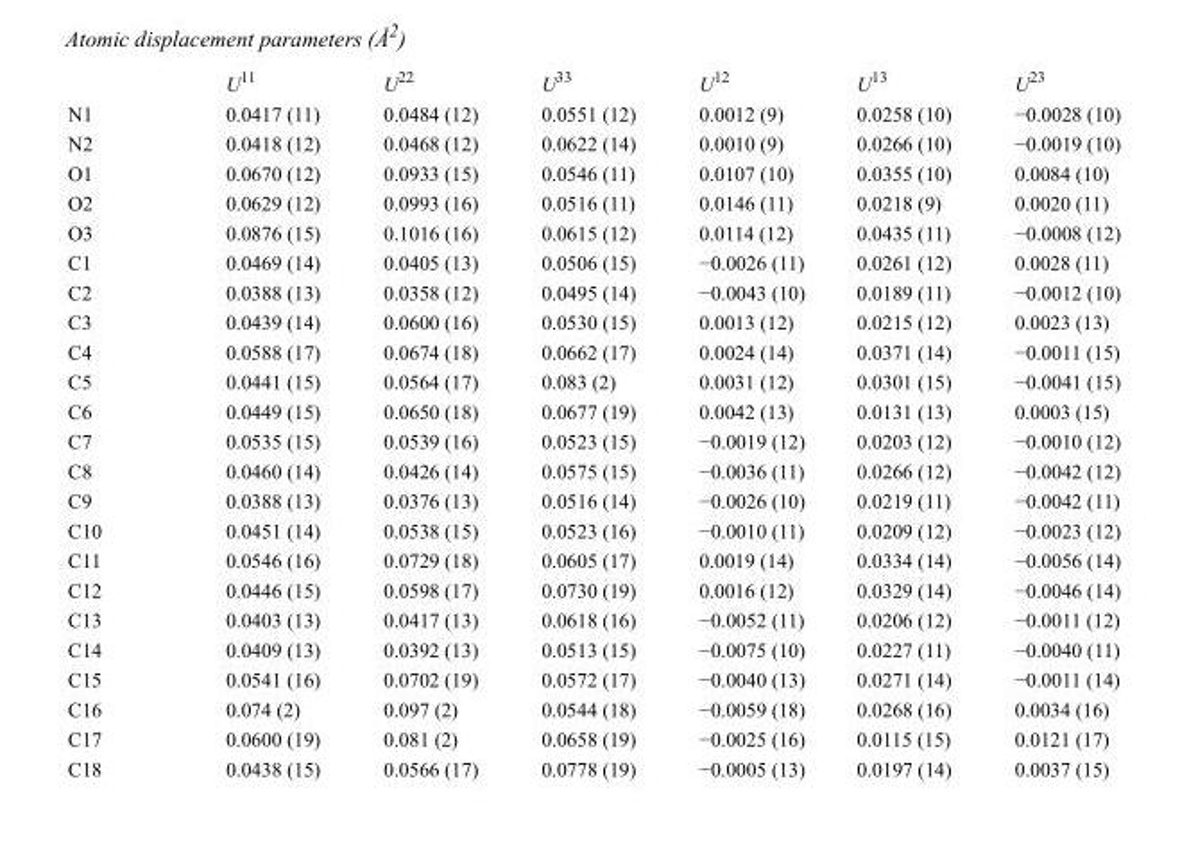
<table><thead><tr><td></td><td>U<sup>11</sup></td><td>U<sup>22</sup></td><td>U<sup>33</sup></td><td>U<sup>12</sup></td><td>U<sup>13</sup></td><td>U<sup>23</sup></td></tr></thead><tbody><tr><td>N1</td><td>0.0417 (11)</td><td>0.0484 (12)</td><td>0.0551 (12)</td><td>0.0012 (9)</td><td>0.0258 (10)</td><td>−0.0028 (10)</td></tr><tr><td>N2</td><td>0.0418 (12)</td><td>0.0468 (12)</td><td>0.0622 (14)</td><td>0.0010 (9)</td><td>0.0266 (10)</td><td>−0.0019 (10)</td></tr><tr><td>O1</td><td>0.0670 (12)</td><td>0.0933 (15)</td><td>0.0546 (11)</td><td>0.0107 (10)</td><td>0.0355 (10)</td><td>0.0084 (10)</td></tr><tr><td>O2</td><td>0.0629 (12)</td><td>0.0993 (16)</td><td>0.0516 (11)</td><td>0.0146 (11)</td><td>0.0218 (9)</td><td>0.0020 (11)</td></tr><tr><td>O3</td><td>0.0876 (15)</td><td>0.1016 (16)</td><td>0.0615 (12)</td><td>0.0114 (12)</td><td>0.0435 (11)</td><td>−0.0008 (12)</td></tr><tr><td>C1</td><td>0.0469 (14)</td><td>0.0405 (13)</td><td>0.0506 (15)</td><td>−0.0026 (11)</td><td>0.0261 (12)</td><td>0.0028 (11)</td></tr><tr><td>C2</td><td>0.0388 (13)</td><td>0.0358 (12)</td><td>0.0495 (14)</td><td>−0.0043 (10)</td><td>0.0189 (11)</td><td>−0.0012 (10)</td></tr><tr><td>C3</td><td>0.0439 (14)</td><td>0.0600 (16)</td><td>0.0530 (15)</td><td>0.0013 (12)</td><td>0.0215 (12)</td><td>0.0023 (13)</td></tr><tr><td>C4</td><td>0.0588 (17)</td><td>0.0674 (18)</td><td>0.0662 (17)</td><td>0.0024 (14)</td><td>0.0371 (14)</td><td>−0.0011 (15)</td></tr><tr><td>C5</td><td>0.0441 (15)</td><td>0.0564 (17)</td><td>0.083 (2)</td><td>0.0031 (12)</td><td>0.0301 (15)</td><td>−0.0041 (15)</td></tr><tr><td>C6</td><td>0.0449 (15)</td><td>0.0650 (18)</td><td>0.0677 (19)</td><td>0.0042 (13)</td><td>0.0131 (13)</td><td>0.0003 (15)</td></tr><tr><td>C7</td><td>0.0535 (15)</td><td>0.0539 (16)</td><td>0.0523 (15)</td><td>−0.0019 (12)</td><td>0.0203 (12)</td><td>−0.0010 (12)</td></tr><tr><td>C8</td><td>0.0460 (14)</td><td>0.0426 (14)</td><td>0.0575 (15)</td><td>−0.0036 (11)</td><td>0.0266 (12)</td><td>−0.0042 (12)</td></tr><tr><td>C9</td><td>0.0388 (13)</td><td>0.0376 (13)</td><td>0.0516 (14)</td><td>−0.0026 (10)</td><td>0.0219 (11)</td><td>−0.0042 (11)</td></tr><tr><td>C10</td><td>0.0451 (14)</td><td>0.0538 (15)</td><td>0.0523 (16)</td><td>−0.0010 (11)</td><td>0.0209 (12)</td><td>−0.0023 (12)</td></tr><tr><td>C11</td><td>0.0546 (16)</td><td>0.0729 (18)</td><td>0.0605 (17)</td><td>0.0019 (14)</td><td>0.0334 (14)</td><td>−0.0056 (14)</td></tr><tr><td>C12</td><td>0.0446 (15)</td><td>0.0598 (17)</td><td>0.0730 (19)</td><td>0.0016 (12)</td><td>0.0329 (14)</td><td>−0.0046 (14)</td></tr><tr><td>C13</td><td>0.0403 (13)</td><td>0.0417 (13)</td><td>0.0618 (16)</td><td>−0.0052 (11)</td><td>0.0206 (12)</td><td>−0.0011 (12)</td></tr><tr><td>C14</td><td>0.0409 (13)</td><td>0.0392 (13)</td><td>0.0513 (15)</td><td>−0.0075 (10)</td><td>0.0227 (11)</td><td>−0.0040 (11)</td></tr><tr><td>C15</td><td>0.0541 (16)</td><td>0.0702 (19)</td><td>0.0572 (17)</td><td>−0.0040 (13)</td><td>0.0271 (14)</td><td>−0.0011 (14)</td></tr><tr><td>C16</td><td>0.074 (2)</td><td>0.097 (2)</td><td>0.0544 (18)</td><td>−0.0059 (18)</td><td>0.0268 (16)</td><td>0.0034 (16)</td></tr><tr><td>C17</td><td>0.0600 (19)</td><td>0.081 (2)</td><td>0.0658 (19)</td><td>−0.0025 (16)</td><td>0.0115 (15)</td><td>0.0121 (17)</td></tr><tr><td>C18</td><td>0.0438 (15)</td><td>0.0566 (17)</td><td>0.0778 (19)</td><td>−0.0005 (13)</td><td>0.0197 (14)</td><td>0.0037 (15)</td></tr></tbody></table>